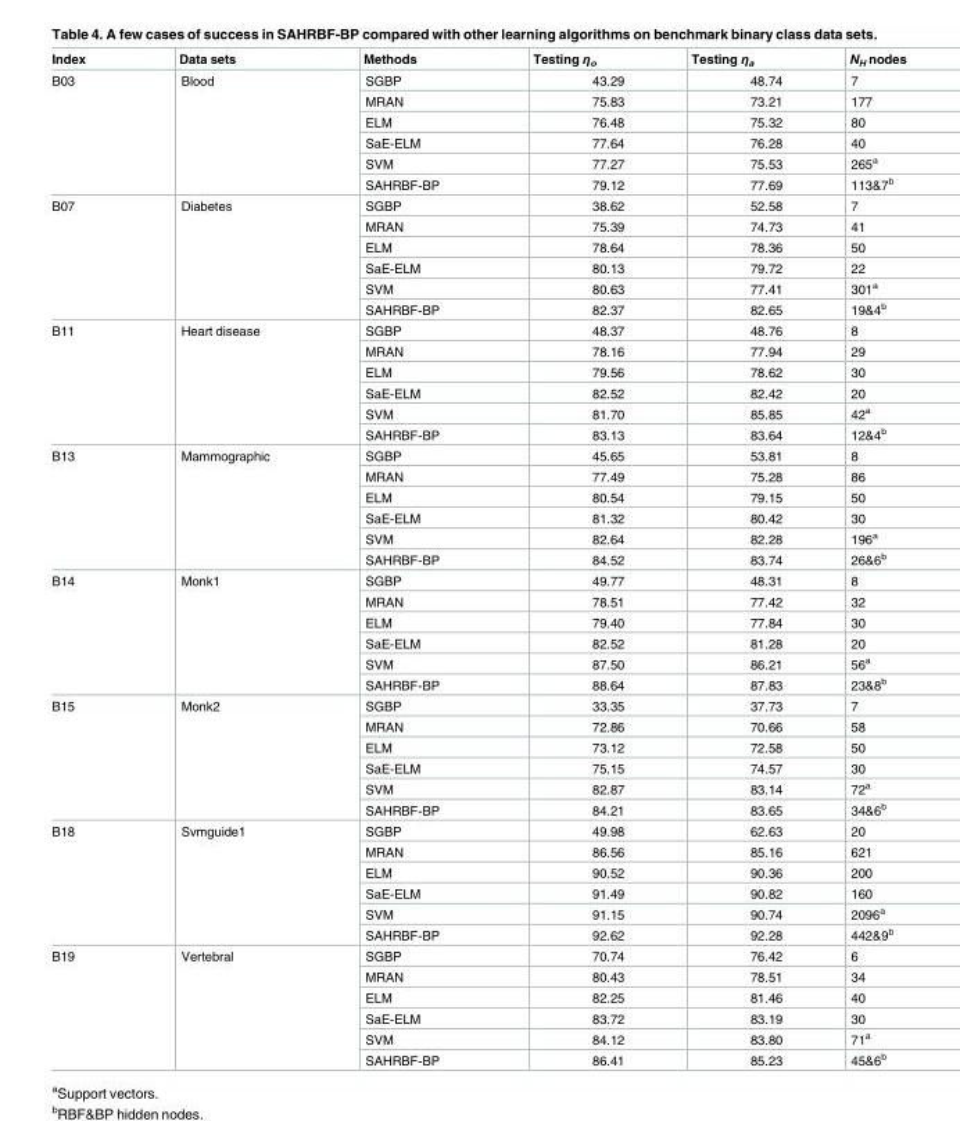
<table><thead><tr><td>Index</td><td>Data sets</td><td>Methods</td><td>Testing η<sub>o</sub></td><td>Testing η<sub>a</sub></td><td>N<sub>H</sub> nodes</td></tr></thead><tbody><tr><td rowspan="6">B03</td><td rowspan="6">Blood</td><td>SGBP</td><td>43.29</td><td>48.74</td><td>7</td></tr><tr><td>MRAN</td><td>75.83</td><td>73.21</td><td>177</td></tr><tr><td>ELM</td><td>76.48</td><td>75.32</td><td>80</td></tr><tr><td>SaE-ELM</td><td>77.64</td><td>76.28</td><td>40</td></tr><tr><td>SVM</td><td>77.27</td><td>75.53</td><td>265<sup>a</sup></td></tr><tr><td>SAHRBF-BP</td><td>79.12</td><td>77.69</td><td>113&amp;7<sup>b</sup></td></tr><tr><td rowspan="6">B07</td><td rowspan="6">Diabetes</td><td>SGBP</td><td>38.62</td><td>52.58</td><td>7</td></tr><tr><td>MRAN</td><td>75.39</td><td>74.73</td><td>41</td></tr><tr><td>ELM</td><td>78.64</td><td>78.36</td><td>50</td></tr><tr><td>SaE-ELM</td><td>80.13</td><td>79.72</td><td>22</td></tr><tr><td>SVM</td><td>80.63</td><td>77.41</td><td>301<sup>a</sup></td></tr><tr><td>SAHRBF-BP</td><td>82.37</td><td>82.65</td><td>19&amp;4<sup>b</sup></td></tr><tr><td rowspan="6">B11</td><td rowspan="6">Heart disease</td><td>SGBP</td><td>48.37</td><td>48.76</td><td>8</td></tr><tr><td>MRAN</td><td>78.16</td><td>77.94</td><td>29</td></tr><tr><td>ELM</td><td>79.56</td><td>78.62</td><td>30</td></tr><tr><td>SaE-ELM</td><td>82.52</td><td>82.42</td><td>20</td></tr><tr><td>SVM</td><td>81.70</td><td>85.85</td><td>42<sup>a</sup></td></tr><tr><td>SAHRBF-BP</td><td>83.13</td><td>83.64</td><td>12&amp;4<sup>b</sup></td></tr><tr><td rowspan="6">B13</td><td rowspan="6">Mammographic</td><td>SGBP</td><td>45.65</td><td>53.81</td><td>8</td></tr><tr><td>MRAN</td><td>77.49</td><td>75.28</td><td>86</td></tr><tr><td>ELM</td><td>80.54</td><td>79.15</td><td>50</td></tr><tr><td>SaE-ELM</td><td>81.32</td><td>80.42</td><td>30</td></tr><tr><td>SVM</td><td>82.64</td><td>82.28</td><td>196<sup>a</sup></td></tr><tr><td>SAHRBF-BP</td><td>84.52</td><td>83.74</td><td>26&amp;6<sup>b</sup></td></tr><tr><td rowspan="6">B14</td><td rowspan="6">Monk1</td><td>SGBP</td><td>49.77</td><td>48.31</td><td>8</td></tr><tr><td>MRAN</td><td>78.51</td><td>77.42</td><td>32</td></tr><tr><td>ELM</td><td>79.40</td><td>77.84</td><td>30</td></tr><tr><td>SaE-ELM</td><td>82.52</td><td>81.28</td><td>20</td></tr><tr><td>SVM</td><td>87.50</td><td>86.21</td><td>56<sup>a</sup></td></tr><tr><td>SAHRBF-BP</td><td>88.64</td><td>87.83</td><td>23&amp;8<sup>b</sup></td></tr><tr><td rowspan="6">B15</td><td rowspan="6">Monk2</td><td>SGBP</td><td>33.35</td><td>37.73</td><td>7</td></tr><tr><td>MRAN</td><td>72.86</td><td>70.66</td><td>58</td></tr><tr><td>ELM</td><td>73.12</td><td>72.58</td><td>50</td></tr><tr><td>SaE-ELM</td><td>75.15</td><td>74.57</td><td>30</td></tr><tr><td>SVM</td><td>82.87</td><td>83.14</td><td>72<sup>a</sup></td></tr><tr><td>SAHRBF-BP</td><td>84.21</td><td>83.65</td><td>34&amp;6<sup>b</sup></td></tr><tr><td rowspan="6">B18</td><td rowspan="6">Svmguide1</td><td>SGBP</td><td>49.98</td><td>62.63</td><td>20</td></tr><tr><td>MRAN</td><td>86.56</td><td>85.16</td><td>621</td></tr><tr><td>ELM</td><td>90.52</td><td>90.36</td><td>200</td></tr><tr><td>SaE-ELM</td><td>91.49</td><td>90.82</td><td>160</td></tr><tr><td>SVM</td><td>91.15</td><td>90.74</td><td>2096<sup>a</sup></td></tr><tr><td>SAHRBF-BP</td><td>92.62</td><td>92.28</td><td>442&amp;9<sup>b</sup></td></tr><tr><td rowspan="6">B19</td><td rowspan="6">Vertebral</td><td>SGBP</td><td>70.74</td><td>76.42</td><td>6</td></tr><tr><td>MRAN</td><td>80.43</td><td>78.51</td><td>34</td></tr><tr><td>ELM</td><td>82.25</td><td>81.46</td><td>40</td></tr><tr><td>SaE-ELM</td><td>83.72</td><td>83.19</td><td>30</td></tr><tr><td>SVM</td><td>84.12</td><td>83.80</td><td>71<sup>a</sup></td></tr><tr><td>SAHRBF-BP</td><td>86.41</td><td>85.23</td><td>45&amp;6<sup>b</sup></td></tr></tbody></table>